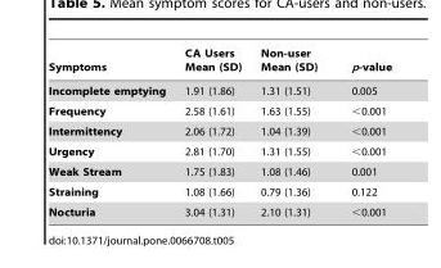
<table><thead><tr><td>Symptoms</td><td>CA Users Mean (SD)</td><td>Non-user Mean (SD)</td><td>p-value</td></tr></thead><tbody><tr><td>Incomplete emptying</td><td>1.91 (1.86)</td><td>1.31 (1.51)</td><td>0.005</td></tr><tr><td>Frequency</td><td>2.58 (1.61)</td><td>1.63 (1.55)</td><td>&lt;0.001</td></tr><tr><td>Intermittency</td><td>2.06 (1.72)</td><td>1.04 (1.39)</td><td>&lt;0.001</td></tr><tr><td>Urgency</td><td>2.81 (1.70)</td><td>1.31 (1.55)</td><td>&lt;0.001</td></tr><tr><td>Weak Stream</td><td>1.75 (1.83)</td><td>1.08 (1.46)</td><td>0.001</td></tr><tr><td>Straining</td><td>1.08 (1.66)</td><td>0.79 (1.36)</td><td>0.122</td></tr><tr><td>Nocturia</td><td>3.04 (1.31)</td><td>2.10 (1.31)</td><td>&lt;0.001</td></tr></tbody></table>